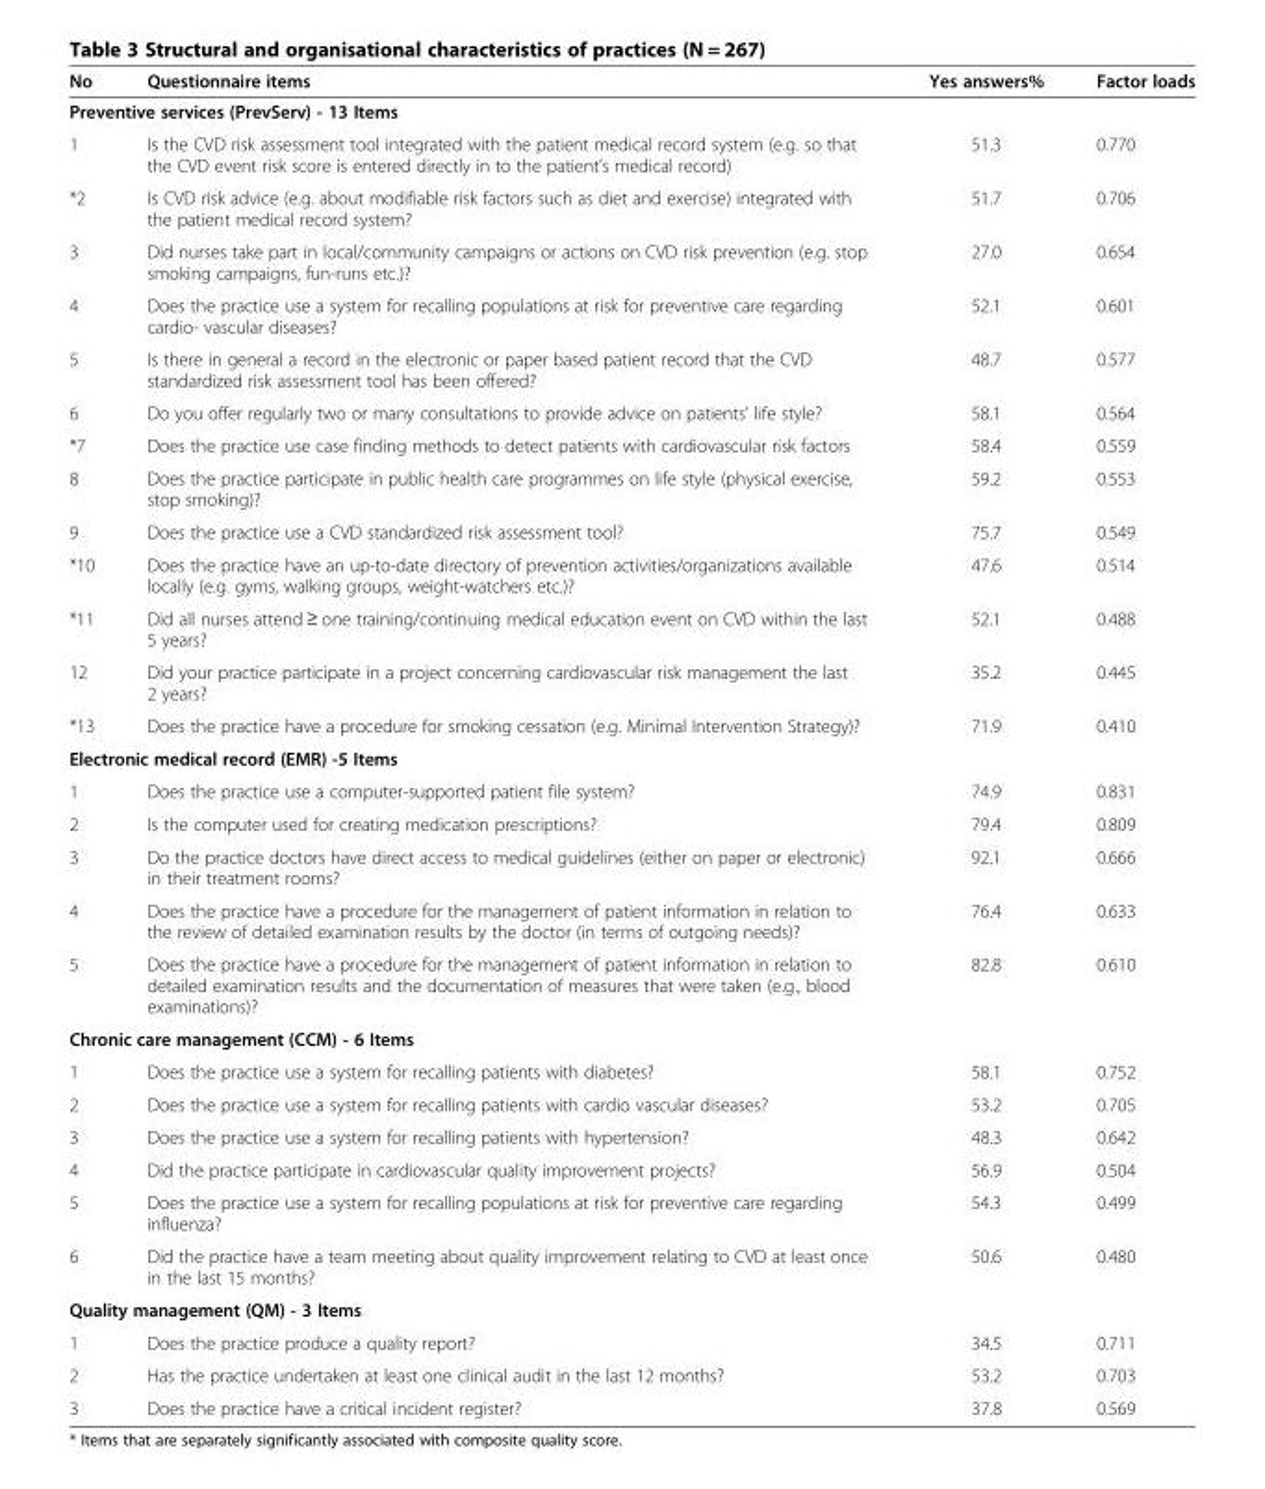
<table><thead><tr><td>No</td><td>Questionnaire items</td><td>Yes answers%</td><td>Factor loads</td></tr></thead><tbody><tr><td colspan="4">Preventive services (PrevServ) - 13 Items</td></tr><tr><td>1</td><td>Is the CVD risk assessment tool integrated with the patient medical record system (e.g. so that the CVD event risk score is entered directly in to the patient’s medical record)</td><td>51.3</td><td>0.770</td></tr><tr><td>*2</td><td>Is CVD risk advice (e.g. about modifiable risk factors such as diet and exercise) integrated with the patient medical record system?</td><td>51.7</td><td>0.706</td></tr><tr><td>3</td><td>Did nurses take part in local/community campaigns or actions on CVD risk prevention (e.g. stop smoking campaigns, fun-runs etc.)?</td><td>27.0</td><td>0.654</td></tr><tr><td>4</td><td>Does the practice use a system for recalling populations at risk for preventive care regarding cardio- vascular diseases?</td><td>52.1</td><td>0.601</td></tr><tr><td>5</td><td>Is there in general a record in the electronic or paper based patient record that the CVD standardized risk assessment tool has been offered?</td><td>48.7</td><td>0.577</td></tr><tr><td>6</td><td>Do you offer regularly two or many consultations to provide advice on patients’ life style?</td><td>58.1</td><td>0.564</td></tr><tr><td>*7</td><td>Does the practice use case finding methods to detect patients with cardiovascular risk factors</td><td>58.4</td><td>0.559</td></tr><tr><td>8</td><td>Does the practice participate in public health care programmes on life style (physical exercise, stop smoking)?</td><td>59.2</td><td>0.553</td></tr><tr><td>9</td><td>Does the practice use a CVD standardized risk assessment tool?</td><td>75.7</td><td>0.549</td></tr><tr><td>*10</td><td>Does the practice have an up-to-date directory of prevention activities/organizations available locally (e.g. gyms, walking groups, weight-watchers etc.)?</td><td>47.6</td><td>0.514</td></tr><tr><td>*11</td><td>Did all nurses attend ≥ one training/continuing medical education event on CVD within the last 5 years?</td><td>52.1</td><td>0.488</td></tr><tr><td>12</td><td>Did your practice participate in a project concerning cardiovascular risk management the last 2 years?</td><td>35.2</td><td>0.445</td></tr><tr><td>*13</td><td>Does the practice have a procedure for smoking cessation (e.g. Minimal Intervention Strategy)?</td><td>71.9</td><td>0.410</td></tr><tr><td colspan="4">Electronic medical record (EMR) -5 Items</td></tr><tr><td>1</td><td>Does the practice use a computer-supported patient file system?</td><td>74.9</td><td>0.831</td></tr><tr><td>2</td><td>Is the computer used for creating medication prescriptions?</td><td>79.4</td><td>0.809</td></tr><tr><td>3</td><td>Do the practice doctors have direct access to medical guidelines (either on paper or electronic) in their treatment rooms?</td><td>92.1</td><td>0.666</td></tr><tr><td>4</td><td>Does the practice have a procedure for the management of patient information in relation to the review of detailed examination results by the doctor (in terms of outgoing needs)?</td><td>76.4</td><td>0.633</td></tr><tr><td>5</td><td>Does the practice have a procedure for the management of patient information in relation to detailed examination results and the documentation of measures that were taken (e.g., blood examinations)?</td><td>82.8</td><td>0.610</td></tr><tr><td colspan="4">Chronic care management (CCM) - 6 Items</td></tr><tr><td>1</td><td>Does the practice use a system for recalling patients with diabetes?</td><td>58.1</td><td>0.752</td></tr><tr><td>2</td><td>Does the practice use a system for recalling patients with cardio vascular diseases?</td><td>53.2</td><td>0.705</td></tr><tr><td>3</td><td>Does the practice use a system for recalling patients with hypertension?</td><td>48.3</td><td>0.642</td></tr><tr><td>4</td><td>Did the practice participate in cardiovascular quality improvement projects?</td><td>56.9</td><td>0.504</td></tr><tr><td>5</td><td>Does the practice use a system for recalling populations at risk for preventive care regarding influenza?</td><td>54.3</td><td>0.499</td></tr><tr><td>6</td><td>Did the practice have a team meeting about quality improvement relating to CVD at least once in the last 15 months?</td><td>50.6</td><td>0.480</td></tr><tr><td colspan="4">Quality management (QM) - 3 Items</td></tr><tr><td>1</td><td>Does the practice produce a quality report?</td><td>34.5</td><td>0.711</td></tr><tr><td>2</td><td>Has the practice undertaken at least one clinical audit in the last 12 months?</td><td>53.2</td><td>0.703</td></tr><tr><td>3</td><td>Does the practice have a critical incident register?</td><td>37.8</td><td>0.569</td></tr></tbody></table>